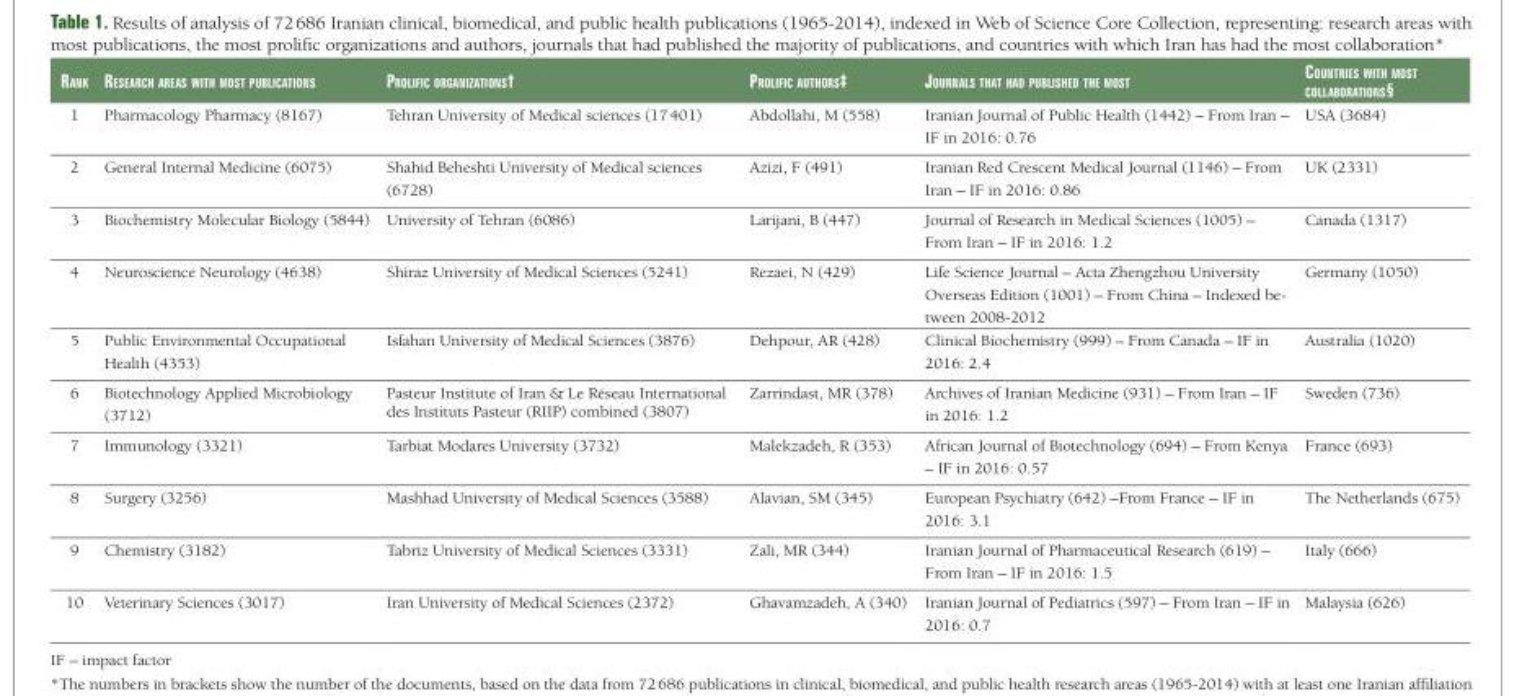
<table><thead><tr><td>Rank</td><td>ReseaRch aReas with most publications</td><td>pRolific oRganizations†</td><td>pRolific authoRs‡</td><td>JouRnals that had published the most</td><td>countRies with most collaboRations§</td></tr></thead><tbody><tr><td>1</td><td>Pharmacology Pharmacy (8167)</td><td>Tehran University of Medical sciences (17 401)</td><td>Abdollahi, M (558)</td><td>Iranian Journal of Public Health (1442) – From Iran – IF in 2016: 0.76</td><td>USA (3684)</td></tr><tr><td>2</td><td>General Internal Medicine (6075)</td><td>Shahid Beheshti University of Medical sciences (6728)</td><td>Azizi, F (491)</td><td>Iranian Red Crescent Medical Journal (1146) – From Iran – IF in 2016: 0.86</td><td>UK (2331)</td></tr><tr><td>3</td><td>Biochemistry Molecular Biology (5844)</td><td>University of Tehran (6086)</td><td>Larijani, B (447)</td><td>Journal of Research in Medical Sciences (1005) – From Iran – IF in 2016: 1.2</td><td>Canada (1317)</td></tr><tr><td>4</td><td>Neuroscience Neurology (4638)</td><td>Shiraz University of Medical Sciences (5241)</td><td>Rezaei, N (429)</td><td>Life Science Journal – Acta Zhengzhou University Overseas Edition (1001) – From China – Indexed be- tween 2008-2012</td><td>Germany (1050)</td></tr><tr><td>5</td><td>Public Environmental Occupational Health (4353)</td><td>Isfahan University of Medical Sciences (3876)</td><td>Dehpour, AR (428)</td><td>Clinical Biochemistry (999) – From Canada – IF in 2016: 2.4</td><td>Australia (1020)</td></tr><tr><td>6</td><td>Biotechnology Applied Microbiology (3712)</td><td>Pasteur Institute of Iran &amp; Le Réseau International des Instituts Pasteur (RIIP) combined (3807)</td><td>Zarrindast, MR (378)</td><td>Archives of Iranian Medicine (931) – From Iran – IF in 2016: 1.2</td><td>Sweden (736)</td></tr><tr><td>7</td><td>Immunology (3321)</td><td>Tarbiat Modares University (3732)</td><td>Malekzadeh, R (353)</td><td>African Journal of Biotechnology (694) – From Kenya – IF in 2016: 0.57</td><td>France (693)</td></tr><tr><td>8</td><td>Surgery (3256)</td><td>Mashhad University of Medical Sciences (3588)</td><td>Alavian, SM (345)</td><td>European Psychiatry (642) –From France – IF in 2016: 3.1</td><td>The Netherlands (675)</td></tr><tr><td>9</td><td>Chemistry (3182)</td><td>Tabriz University of Medical Sciences (3331)</td><td>Zali, MR (344)</td><td>Iranian Journal of Pharmaceutical Research (619) – From Iran – IF in 2016: 1.5</td><td>Italy (666)</td></tr><tr><td>10</td><td>Veterinary Sciences (3017)</td><td>Iran University of Medical Sciences (2372)</td><td>Ghavamzadeh, A (340)</td><td>Iranian Journal of Pediatrics (597) – From Iran – IF in 2016: 0.7</td><td>Malaysia (626)</td></tr></tbody></table>